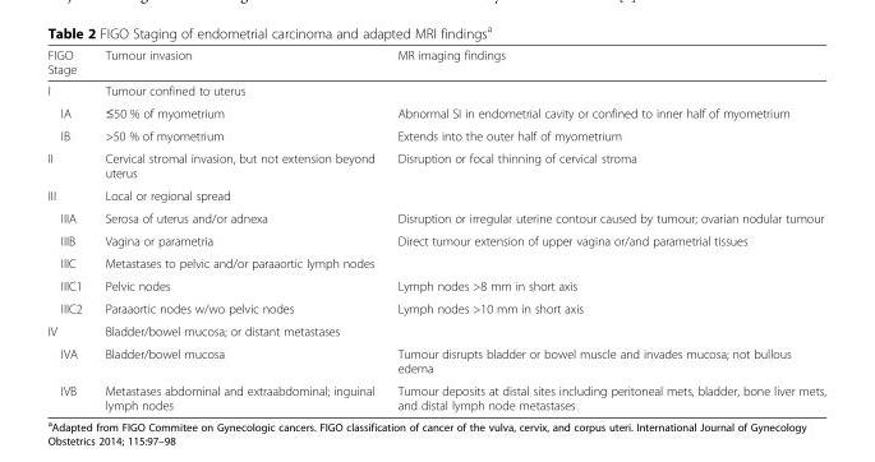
<table><thead><tr><td>FIGO Stage</td><td>Tumour invasion</td><td>MR imaging findings</td></tr></thead><tbody><tr><td>I</td><td>Tumour confined to uterus</td><td></td></tr><tr><td>IA</td><td>≤50 % of myometrium</td><td>Abnormal SI in endometrial cavity or confined to inner half of myometrium</td></tr><tr><td>IB</td><td>&gt;50 % of myometrium</td><td>Extends into the outer half of myometrium</td></tr><tr><td>II</td><td>Cervical stromal invasion, but not extension beyond uterus</td><td>Disruption or focal thinning of cervical stroma</td></tr><tr><td>III</td><td>Local or regional spread</td><td></td></tr><tr><td>IIIA</td><td>Serosa of uterus and/or adnexa</td><td>Disruption or irregular uterine contour caused by tumour; ovarian nodular tumour</td></tr><tr><td>IIIB</td><td>Vagina or parametria</td><td>Direct tumour extension of upper vagina or/and parametrial tissues</td></tr><tr><td>IIIC</td><td>Metastases to pelvic and/or paraaortic lymph nodes</td><td></td></tr><tr><td>IIIC1</td><td>Pelvic nodes</td><td>Lymph nodes &gt;8 mm in short axis</td></tr><tr><td>IIIC2</td><td>Paraaortic nodes w/wo pelvic nodes</td><td>Lymph nodes &gt;10 mm in short axis</td></tr><tr><td>IV</td><td>Bladder/bowel mucosa; or distant metastases</td><td></td></tr><tr><td>IVA</td><td>Bladder/bowel mucosa</td><td>Tumour disrupts bladder or bowel muscle and invades mucosa; not bullous edema</td></tr><tr><td>IVB</td><td>Metastases abdominal and extraabdominal; inguinal lymph nodes</td><td>Tumour deposits at distal sites including peritoneal mets, bladder, bone liver mets, and distal lymph node metastases</td></tr></tbody></table>